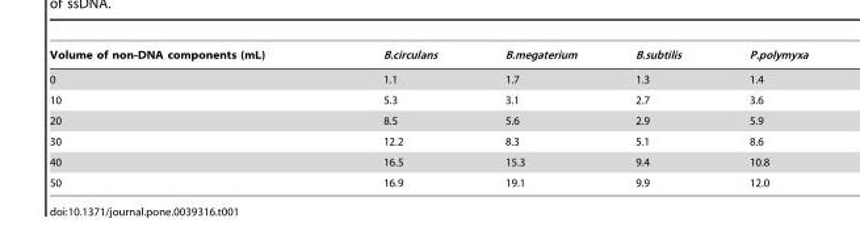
<table><thead><tr><td>Volume of non-DNA components (mL)</td><td>B.circulans</td><td>B.megaterium</td><td>B.subtilis</td><td>P.polymyxa</td></tr></thead><tbody><tr><td>0</td><td>1.1</td><td>1.7</td><td>1.3</td><td>1.4</td></tr><tr><td>10</td><td>5.3</td><td>3.1</td><td>2.7</td><td>3.6</td></tr><tr><td>20</td><td>8.5</td><td>5.6</td><td>2.9</td><td>5.9</td></tr><tr><td>30</td><td>12.2</td><td>8.3</td><td>5.1</td><td>8.6</td></tr><tr><td>40</td><td>16.5</td><td>15.3</td><td>9.4</td><td>10.8</td></tr><tr><td>50</td><td>16.9</td><td>19.1</td><td>9.9</td><td>12.0</td></tr></tbody></table>